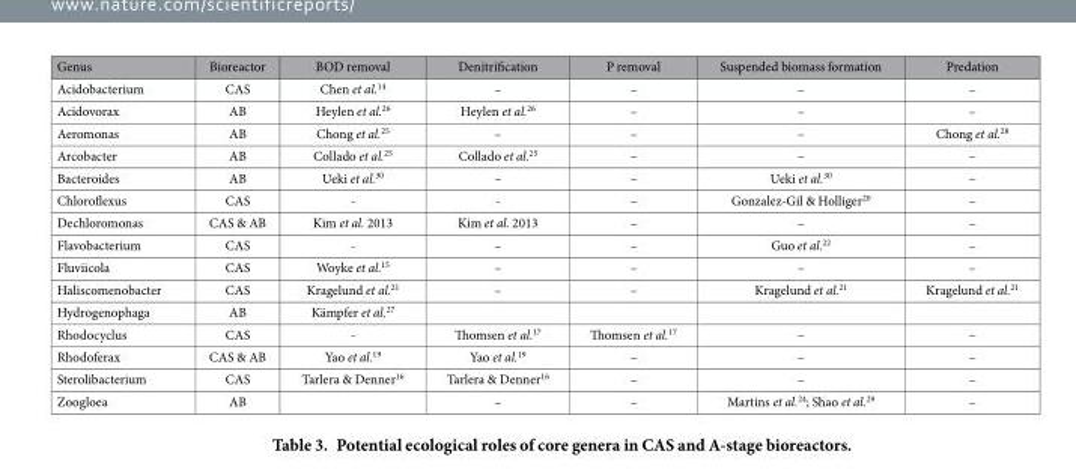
<table><thead><tr><td>Genus</td><td>Bioreactor</td><td>BOD removal</td><td>Denitrification</td><td>P removal</td><td>Suspended biomass formation</td><td>Predation</td></tr></thead><tbody><tr><td>Acidobacterium</td><td>CAS</td><td>Chen et al.<sup>14</sup></td><td>–</td><td>–</td><td>–</td><td>–</td></tr><tr><td>Acidovorax</td><td>AB</td><td>Heylen et al.<sup>26</sup></td><td>Heylen et al.<sup>26</sup></td><td>–</td><td>–</td><td>–</td></tr><tr><td>Aeromonas</td><td>AB</td><td>Chong et al.<sup>25</sup></td><td>–</td><td>–</td><td>–</td><td>Chong et al.<sup>28</sup></td></tr><tr><td>Arcobacter</td><td>AB</td><td>Collado et al.<sup>25</sup></td><td>Collado et al.<sup>25</sup></td><td>–</td><td>–</td><td>–</td></tr><tr><td>Bacteroides</td><td>AB</td><td>Ueki et al.<sup>30</sup></td><td>–</td><td>–</td><td>Ueki et al.<sup>30</sup></td><td>–</td></tr><tr><td>Chloroflexus</td><td>CAS</td><td>-</td><td>-</td><td>–</td><td>Gonzalez-Gil &amp; Holliger<sup>20</sup></td><td>–</td></tr><tr><td>Dechloromonas</td><td>CAS &amp; AB</td><td>Kim et al. 2013</td><td>Kim et al. 2013</td><td>–</td><td>–</td><td>–</td></tr><tr><td>Flavobacterium</td><td>CAS</td><td>-</td><td>–</td><td>–</td><td>Guo et al.<sup>22</sup></td><td>–</td></tr><tr><td>Fluviicola</td><td>CAS</td><td>Woyke et al.<sup>15</sup></td><td>–</td><td>–</td><td>–</td><td>–</td></tr><tr><td>Haliscomenobacter</td><td>CAS</td><td>Kragelund et al.<sup>21</sup></td><td>–</td><td>–</td><td>Kragelund et al.<sup>21</sup></td><td>Kragelund et al.<sup>21</sup></td></tr><tr><td>Hydrogenophaga</td><td>AB</td><td>Kämpfer et al.<sup>27</sup></td><td></td><td></td><td></td><td></td></tr><tr><td>Rhodocyclus</td><td>CAS</td><td>-</td><td>Thomsen et al.<sup>17</sup></td><td>Thomsen et al.<sup>17</sup></td><td>–</td><td>–</td></tr><tr><td>Rhodoferax</td><td>CAS &amp; AB</td><td>Yao et al.<sup>19</sup></td><td>Yao et al.<sup>19</sup></td><td>–</td><td>–</td><td>–</td></tr><tr><td>Sterolibacterium</td><td>CAS</td><td>Tarlera &amp; Denner<sup>16</sup></td><td>Tarlera &amp; Denner<sup>16</sup></td><td>–</td><td>–</td><td>–</td></tr><tr><td>Zoogloea</td><td>AB</td><td></td><td>–</td><td>–</td><td>Martins et al.<sup>24</sup>; Shao et al.<sup>29</sup></td><td>–</td></tr></tbody></table>